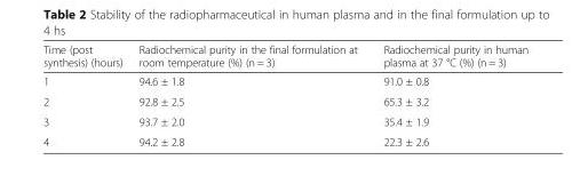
<table><thead><tr><td>Time (post synthesis) (hours)</td><td>Radiochemical purity in the final formulation at room temperature (%) (n = 3)</td><td>Radiochemical purity in human plasma at 37 °C (%) (n = 3)</td></tr></thead><tbody><tr><td>1</td><td>94.6 ± 1.8</td><td>91.0 ± 0.8</td></tr><tr><td>2</td><td>92.8 ± 2.5</td><td>65.3 ± 3.2</td></tr><tr><td>3</td><td>93.7 ± 2.0</td><td>35.4 ± 1.9</td></tr><tr><td>4</td><td>94.2 ± 2.8</td><td>22.3 ± 2.6</td></tr></tbody></table>